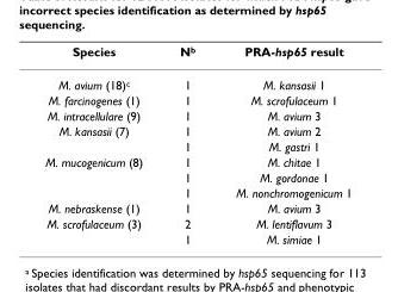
<table><thead><tr><td>Species</td><td>N<sup>b</sup></td><td>PRA-hsp65 result</td></tr></thead><tbody><tr><td>M. avium (18)<sup>c</sup></td><td>1</td><td>M. kansasii 1</td></tr><tr><td>M. farcinogenes (1)</td><td>1</td><td>M. scrofulaceum 1</td></tr><tr><td>M. intracellulare (9)</td><td>1</td><td>M. avium 3</td></tr><tr><td rowspan="2">M. kansasii (7)</td><td>1</td><td>M. avium 2</td></tr><tr><td>1</td><td>M. gastri 1</td></tr><tr><td rowspan="3">M. mucogenicum (8)</td><td>1</td><td>M. chitae 1</td></tr><tr><td>1</td><td>M. gordonae 1</td></tr><tr><td>1</td><td>M. nonchromogenicum 1</td></tr><tr><td>M. nebraskense (1)</td><td>1</td><td>M. avium 3</td></tr><tr><td rowspan="2">M. scrofulaceum (3)</td><td>2</td><td>M. lentiflavum 3</td></tr><tr><td>1</td><td>M. simiae 1</td></tr></tbody></table>